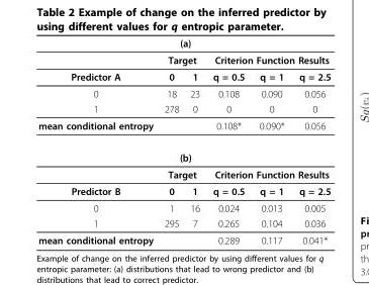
<table><thead><tr><td colspan="6">(a)</td></tr><tr><td rowspan="2">Predictor A</td><td colspan="2">Target</td><td colspan="3">Criterion Function Results</td></tr><tr><td>0</td><td>1</td><td>q = 0.5</td><td>q = 1</td><td>q = 2.5</td></tr></thead><tbody><tr><td>0</td><td>18</td><td>23</td><td>0.108</td><td>0.090</td><td>0.056</td></tr><tr><td>1</td><td>278</td><td>0</td><td>0</td><td>0</td><td>0</td></tr><tr><td>mean conditional entropy</td><td></td><td></td><td>0.108*</td><td>0.090*</td><td>0.056</td></tr><tr><td colspan="6">(b)</td></tr><tr><td></td><td colspan="2">Target</td><td colspan="3">Criterion Function Results</td></tr><tr><td>Predictor B</td><td>0</td><td>1</td><td>q = 0.5</td><td>q = 1</td><td>q = 2.5</td></tr><tr><td>0</td><td>1</td><td>16</td><td>0.024</td><td>0.013</td><td>0.005</td></tr><tr><td>1</td><td>295</td><td>7</td><td>0.265</td><td>0.104</td><td>0.036</td></tr><tr><td>mean conditional entropy</td><td></td><td></td><td>0.289</td><td>0.117</td><td>0.041*</td></tr></tbody></table>